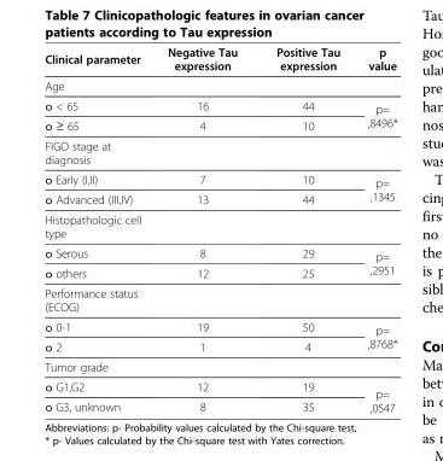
<table><thead><tr><td>Clinical parameter</td><td>Negative Tau expression</td><td>Positive Tau expression</td><td>p value</td></tr></thead><tbody><tr><td colspan="4">Age</td></tr><tr><td>o &lt; 65</td><td>16</td><td>44</td><td rowspan="2">p= ,8496*</td></tr><tr><td>o ≥ 65</td><td>4</td><td>10</td></tr><tr><td colspan="4">FIGO stage at diagnosis</td></tr><tr><td>o Early (I,II)</td><td>7</td><td>10</td><td rowspan="2">p= ,1345</td></tr><tr><td>o Advanced (III,IV)</td><td>13</td><td>44</td></tr><tr><td colspan="4">Histopathologic cell type</td></tr><tr><td>o Serous</td><td>8</td><td>29</td><td rowspan="2">p= ,2951</td></tr><tr><td>o others</td><td>12</td><td>25</td></tr><tr><td colspan="4">Performance status (ECOG)</td></tr><tr><td>o 0-1</td><td>19</td><td>50</td><td rowspan="2">p= ,8768*</td></tr><tr><td>o 2</td><td>1</td><td>4</td></tr><tr><td colspan="4">Tumor grade</td></tr><tr><td>o G1,G2</td><td>12</td><td>19</td><td rowspan="2">p= ,0547</td></tr><tr><td>o G3, unknown</td><td>8</td><td>35</td></tr></tbody></table>